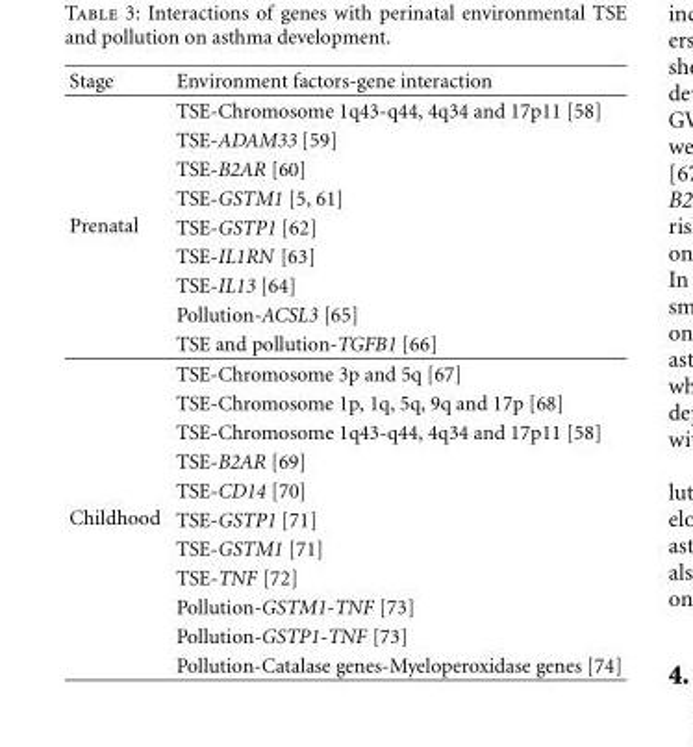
<table><thead><tr><td>Stage</td><td>Environment factors-gene interaction</td></tr></thead><tbody><tr><td rowspan="9">Prenatal</td><td>TSE-Chromosome 1q43-q44, 4q34 and 17p11 [58]</td></tr><tr><td>TSE-ADAM33 [59]</td></tr><tr><td>TSE-B2AR [60]</td></tr><tr><td>TSE-GSTM1 [5, 61]</td></tr><tr><td>TSE-GSTP1 [62]</td></tr><tr><td>TSE-IL1RN [63]</td></tr><tr><td>TSE-IL13 [64]</td></tr><tr><td>Pollution-ACSL3 [65]</td></tr><tr><td>TSE and pollution-TGFB1 [66]</td></tr><tr><td rowspan="11">Childhood</td><td>TSE-Chromosome 3p and 5q [67]</td></tr><tr><td>TSE-Chromosome 1p, 1q, 5q, 9q and 17p [68]</td></tr><tr><td>TSE-Chromosome 1q43-q44, 4q34 and 17p11 [58]</td></tr><tr><td>TSE-B2AR [69]</td></tr><tr><td>TSE-CD14 [70]</td></tr><tr><td>TSE-GSTP1 [71]</td></tr><tr><td>TSE-GSTM1 [71]</td></tr><tr><td>TSE-TNF [72]</td></tr><tr><td>Pollution-GSTM1-TNF [73]</td></tr><tr><td>Pollution-GSTP1-TNF [73]</td></tr><tr><td>Pollution-Catalase genes-Myeloperoxidase genes [74]</td></tr></tbody></table>